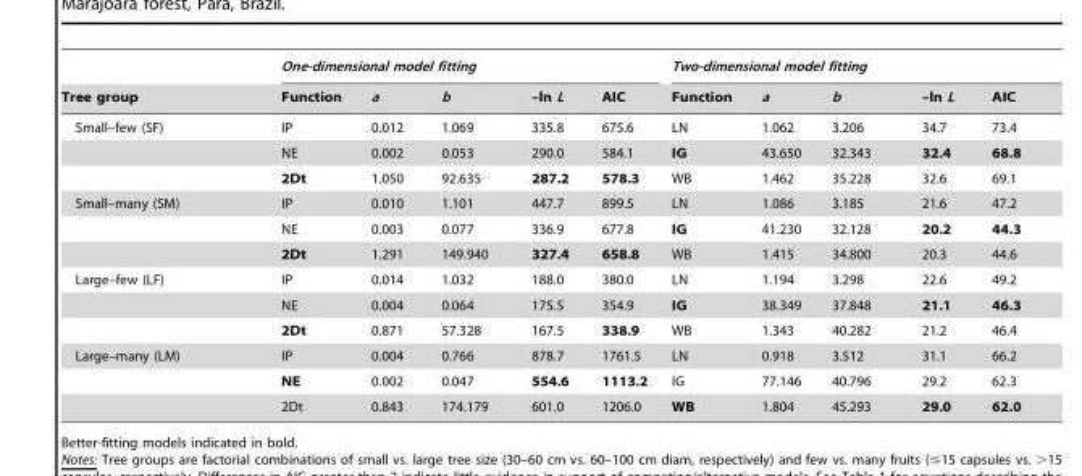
<table><thead><tr><td rowspan="2">Tree group</td><td colspan="5">One-dimensional model fitting</td><td colspan="5">Two-dimensional model fitting</td></tr><tr><td>Function</td><td>a</td><td>b</td><td>–ln L</td><td>AIC</td><td>Function</td><td>a</td><td>b</td><td>–ln L</td><td>AIC</td></tr></thead><tbody><tr><td rowspan="3">Small–few (SF)</td><td>IP</td><td>0.012</td><td>1.069</td><td>335.8</td><td>675.6</td><td>LN</td><td>1.062</td><td>3.206</td><td>34.7</td><td>73.4</td></tr><tr><td>NE</td><td>0.002</td><td>0.053</td><td>290.0</td><td>584.1</td><td>IG</td><td>43.650</td><td>32.343</td><td>32.4</td><td>68.8</td></tr><tr><td>2Dt</td><td>1.050</td><td>92.635</td><td>287.2</td><td>578.3</td><td>WB</td><td>1.462</td><td>35.228</td><td>32.6</td><td>69.1</td></tr><tr><td rowspan="3">Small–many (SM)</td><td>IP</td><td>0.010</td><td>1.101</td><td>447.7</td><td>899.5</td><td>LN</td><td>1.086</td><td>3.185</td><td>21.6</td><td>47.2</td></tr><tr><td>NE</td><td>0.003</td><td>0.077</td><td>336.9</td><td>677.8</td><td>IG</td><td>41.230</td><td>32.128</td><td>20.2</td><td>44.3</td></tr><tr><td>2Dt</td><td>1.291</td><td>149.940</td><td>327.4</td><td>658.8</td><td>WB</td><td>1.415</td><td>34.800</td><td>20.3</td><td>44.6</td></tr><tr><td rowspan="3">Large–few (LF)</td><td>IP</td><td>0.014</td><td>1.032</td><td>188.0</td><td>380.0</td><td>LN</td><td>1.194</td><td>3.298</td><td>22.6</td><td>49.2</td></tr><tr><td>NE</td><td>0.004</td><td>0.064</td><td>175.5</td><td>354.9</td><td>IG</td><td>38.349</td><td>37.848</td><td>21.1</td><td>46.3</td></tr><tr><td>2Dt</td><td>0.871</td><td>57.328</td><td>167.5</td><td>338.9</td><td>WB</td><td>1.343</td><td>40.282</td><td>21.2</td><td>46.4</td></tr><tr><td rowspan="3">Large–many (LM)</td><td>IP</td><td>0.004</td><td>0.766</td><td>878.7</td><td>1761.5</td><td>LN</td><td>0.918</td><td>3.512</td><td>31.1</td><td>66.2</td></tr><tr><td>NE</td><td>0.002</td><td>0.047</td><td>554.6</td><td>1113.2</td><td>IG</td><td>77.146</td><td>40.796</td><td>29.2</td><td>62.3</td></tr><tr><td>2Dt</td><td>0.843</td><td>174.179</td><td>601.0</td><td>1206.0</td><td>WB</td><td>1.804</td><td>45.293</td><td>29.0</td><td>62.0</td></tr></tbody></table>